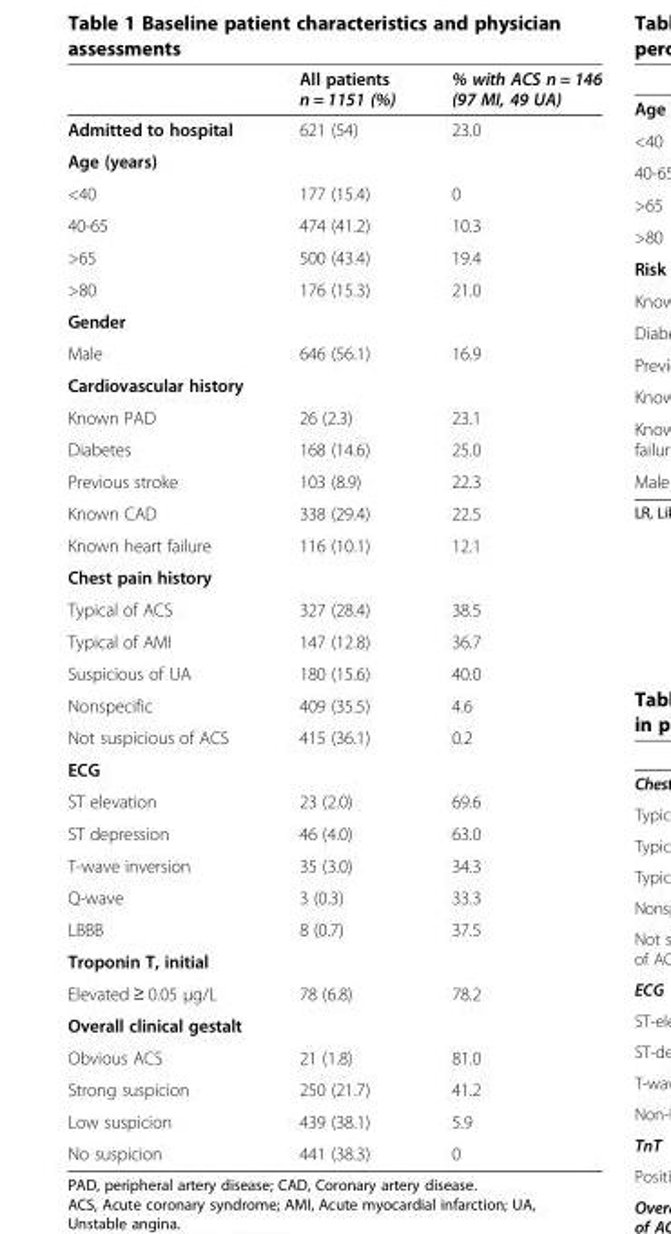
<table><thead><tr><td></td><td>All patients n = 1151 (%)</td><td>% with ACS n = 146 (97 MI, 49 UA)</td></tr></thead><tbody><tr><td>Admitted to hospital</td><td>621 (54)</td><td>23.0</td></tr><tr><td colspan="3">Age (years)</td></tr><tr><td>&lt;40</td><td>177 (15.4)</td><td>0</td></tr><tr><td>40-65</td><td>474 (41.2)</td><td>10.3</td></tr><tr><td>&gt;65</td><td>500 (43.4)</td><td>19.4</td></tr><tr><td>&gt;80</td><td>176 (15.3)</td><td>21.0</td></tr><tr><td colspan="3">Gender</td></tr><tr><td>Male</td><td>646 (56.1)</td><td>16.9</td></tr><tr><td colspan="3">Cardiovascular history</td></tr><tr><td>Known PAD</td><td>26 (2.3)</td><td>23.1</td></tr><tr><td>Diabetes</td><td>168 (14.6)</td><td>25.0</td></tr><tr><td>Previous stroke</td><td>103 (8.9)</td><td>22.3</td></tr><tr><td>Known CAD</td><td>338 (29.4)</td><td>22.5</td></tr><tr><td>Known heart failure</td><td>116 (10.1)</td><td>12.1</td></tr><tr><td colspan="3">Chest pain history</td></tr><tr><td>Typical of ACS</td><td>327 (28.4)</td><td>38.5</td></tr><tr><td>Typical of AMI</td><td>147 (12.8)</td><td>36.7</td></tr><tr><td>Suspicious of UA</td><td>180 (15.6)</td><td>40.0</td></tr><tr><td>Nonspecific</td><td>409 (35.5)</td><td>4.6</td></tr><tr><td>Not suspicious of ACS</td><td>415 (36.1)</td><td>0.2</td></tr><tr><td colspan="3">ECG</td></tr><tr><td>ST elevation</td><td>23 (2.0)</td><td>69.6</td></tr><tr><td>ST depression</td><td>46 (4.0)</td><td>63.0</td></tr><tr><td>T-wave inversion</td><td>35 (3.0)</td><td>34.3</td></tr><tr><td>Q-wave</td><td>3 (0.3)</td><td>33.3</td></tr><tr><td>LBBB</td><td>8 (0.7)</td><td>37.5</td></tr><tr><td colspan="3">Troponin T, initial</td></tr><tr><td>Elevated ≥ 0.05 μg/L</td><td>78 (6.8)</td><td>78.2</td></tr><tr><td colspan="3">Overall clinical gestalt</td></tr><tr><td>Obvious ACS</td><td>21 (1.8)</td><td>81.0</td></tr><tr><td>Strong suspicion</td><td>250 (21.7)</td><td>41.2</td></tr><tr><td>Low suspicion</td><td>439 (38.1)</td><td>5.9</td></tr><tr><td>No suspicion</td><td>441 (38.3)</td><td>0</td></tr></tbody></table>